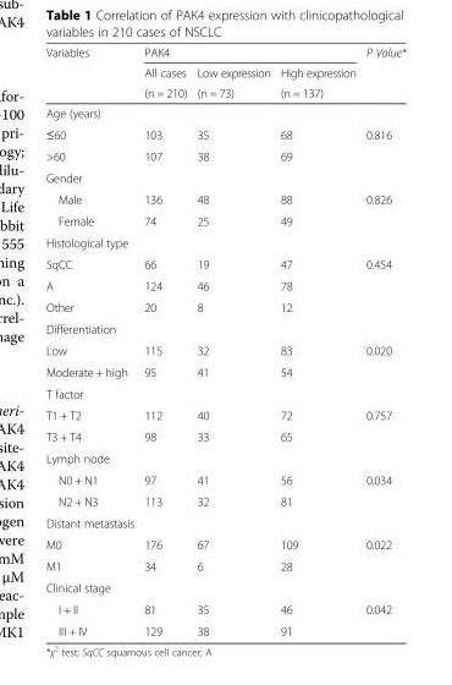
<table><thead><tr><td rowspan="3">Variables</td><td colspan="3">PAK4</td><td rowspan="3">P Value*</td></tr><tr><td rowspan="2">All cases (n = 210)</td><td rowspan="2">Low expression (n = 73)</td><td rowspan="2">High expression (n = 137)</td></tr><tr></tr></thead><tbody><tr><td colspan="5">Age (years)</td></tr><tr><td>≤60</td><td>103</td><td>35</td><td>68</td><td>0.816</td></tr><tr><td>&gt;60</td><td>107</td><td>38</td><td>69</td><td></td></tr><tr><td colspan="5">Gender</td></tr><tr><td>Male</td><td>136</td><td>48</td><td>88</td><td>0.826</td></tr><tr><td>Female</td><td>74</td><td>25</td><td>49</td><td></td></tr><tr><td colspan="5">Histological type</td></tr><tr><td>SqCC</td><td>66</td><td>19</td><td>47</td><td>0.454</td></tr><tr><td>A</td><td>124</td><td>46</td><td>78</td><td></td></tr><tr><td>Other</td><td>20</td><td>8</td><td>12</td><td></td></tr><tr><td colspan="5">Differentiation</td></tr><tr><td>Low</td><td>115</td><td>32</td><td>83</td><td>0.020</td></tr><tr><td>Moderate + high</td><td>95</td><td>41</td><td>54</td><td></td></tr><tr><td colspan="5">T factor</td></tr><tr><td>T1 + T2</td><td>112</td><td>40</td><td>72</td><td>0.757</td></tr><tr><td>T3 + T4</td><td>98</td><td>33</td><td>65</td><td></td></tr><tr><td colspan="5">Lymph node</td></tr><tr><td>N0 + N1</td><td>97</td><td>41</td><td>56</td><td>0.034</td></tr><tr><td>N2 + N3</td><td>113</td><td>32</td><td>81</td><td></td></tr><tr><td colspan="5">Distant metastasis</td></tr><tr><td>M0</td><td>176</td><td>67</td><td>109</td><td>0.022</td></tr><tr><td>M1</td><td>34</td><td>6</td><td>28</td><td></td></tr><tr><td colspan="5">Clinical stage</td></tr><tr><td>I + II</td><td>81</td><td>35</td><td>46</td><td>0.042</td></tr><tr><td>III + IV</td><td>129</td><td>38</td><td>91</td><td></td></tr></tbody></table>